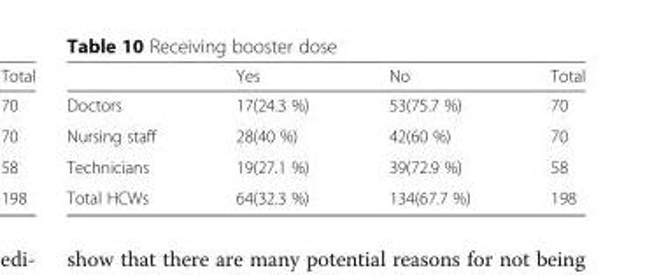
<table><thead><tr><td></td><td>Yes</td><td>No</td><td>Total</td></tr></thead><tbody><tr><td>Doctors</td><td>17(24.3 %)</td><td>53(75.7 %)</td><td>70</td></tr><tr><td>Nursing staff</td><td>28(40 %)</td><td>42(60 %)</td><td>70</td></tr><tr><td>Technicians</td><td>19(27.1 %)</td><td>39(72.9 %)</td><td>58</td></tr><tr><td>Total HCWs</td><td>64(32.3 %)</td><td>134(67.7 %)</td><td>198</td></tr></tbody></table>